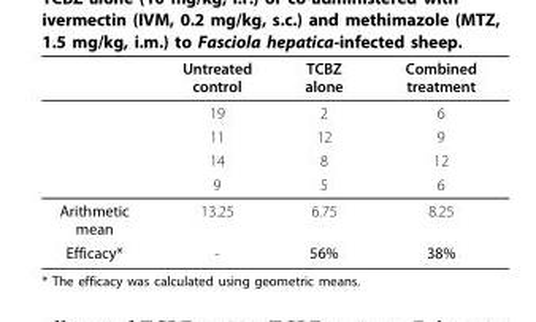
<table><thead><tr><td></td><td>Untreated control</td><td>TCBZ alone</td><td>Combined treatment</td></tr></thead><tbody><tr><td></td><td>19</td><td>2</td><td>6</td></tr><tr><td></td><td>11</td><td>12</td><td>9</td></tr><tr><td></td><td>14</td><td>8</td><td>12</td></tr><tr><td></td><td>9</td><td>5</td><td>6</td></tr><tr><td>Arithmetic mean</td><td>13.25</td><td>6.75</td><td>8.25</td></tr><tr><td>Efficacy*</td><td>-</td><td>56%</td><td>38%</td></tr></tbody></table>